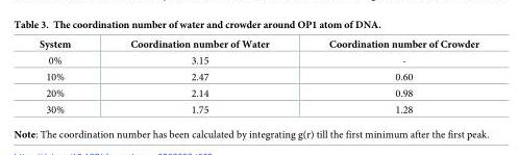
<table><thead><tr><td>System</td><td>Coordination number of Water</td><td>Coordination number of Crowder</td></tr></thead><tbody><tr><td>0%</td><td>3.15</td><td>-</td></tr><tr><td>10%</td><td>2.47</td><td>0.60</td></tr><tr><td>20%</td><td>2.14</td><td>0.98</td></tr><tr><td>30%</td><td>1.75</td><td>1.28</td></tr></tbody></table>